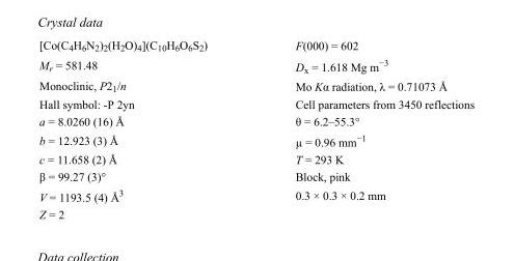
<table><tbody><tr><td>[Co(C<sub>4</sub>H<sub>6</sub>N<sub>2</sub>)<sub>2</sub>(H<sub>2</sub>O)<sub>4</sub>](C<sub>10</sub>H<sub>6</sub>O<sub>6</sub>S<sub>2</sub>)</td><td>F(000) = 602</td></tr><tr><td>M<sub>r</sub> = 581.48</td><td>D<sub>x</sub> = 1.618 Mg m<sup>−3</sup></td></tr><tr><td>Monoclinic, P2<sub>1</sub>/n</td><td>Mo Kα radiation, λ = 0.71073 Å</td></tr><tr><td>Hall symbol: -P 2yn</td><td>Cell parameters from 3450 reflections</td></tr><tr><td>a = 8.0260 (16) Å</td><td>θ = 6.2–55.3°</td></tr><tr><td>b = 12.923 (3) Å</td><td>µ = 0.96 mm<sup>−1</sup></td></tr><tr><td>c = 11.658 (2) Å</td><td>T = 293 K</td></tr><tr><td>β = 99.27 (3)°</td><td>Block, pink</td></tr><tr><td>V = 1193.5 (4) Å<sup>3</sup></td><td>0.3 × 0.3 × 0.2 mm</td></tr><tr><td>Z = 2</td><td></td></tr></tbody></table>